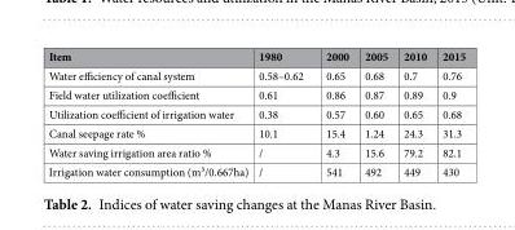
<table><thead><tr><td>Item</td><td>1980</td><td>2000</td><td>2005</td><td>2010</td><td>2015</td></tr></thead><tbody><tr><td>Water efficiency of canal system</td><td>0.58–0.62</td><td>0.65</td><td>0.68</td><td>0.7</td><td>0.76</td></tr><tr><td>Field water utilization coefficient</td><td>0.61</td><td>0.86</td><td>0.87</td><td>0.89</td><td>0.9</td></tr><tr><td>Utilization coefficient of irrigation water</td><td>0.38</td><td>0.57</td><td>0.60</td><td>0.65</td><td>0.68</td></tr><tr><td>Canal seepage rate %</td><td>10.1</td><td>15.4</td><td>1.24</td><td>24.3</td><td>31.3</td></tr><tr><td>Water saving irrigation area ratio %</td><td>/</td><td>4.3</td><td>15.6</td><td>79.2</td><td>82.1</td></tr><tr><td>Irrigation water consumption (m³/0.667ha)</td><td>/</td><td>541</td><td>492</td><td>449</td><td>430</td></tr></tbody></table>